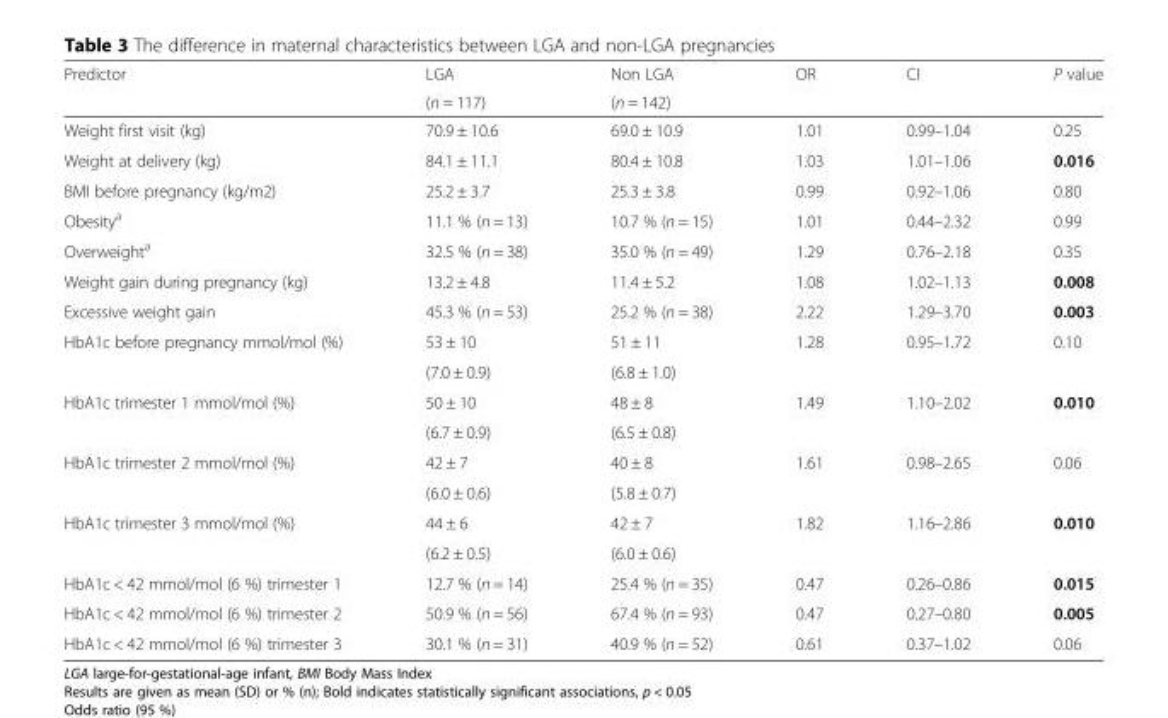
<table><thead><tr><td rowspan="2">Predictor</td><td rowspan="2">LGA (n = 117)</td><td rowspan="2">Non LGA (n = 142)</td><td rowspan="2">OR</td><td rowspan="2">CI</td><td rowspan="2">P value</td></tr><tr></tr></thead><tbody><tr><td>Weight first visit (kg)</td><td>70.9 ± 10.6</td><td>69.0 ± 10.9</td><td>1.01</td><td>0.99–1.04</td><td>0.25</td></tr><tr><td>Weight at delivery (kg)</td><td>84.1 ± 11.1</td><td>80.4 ± 10.8</td><td>1.03</td><td>1.01–1.06</td><td>0.016</td></tr><tr><td>BMI before pregnancy (kg/m2)</td><td>25.2 ± 3.7</td><td>25.3 ± 3.8</td><td>0.99</td><td>0.92–1.06</td><td>0.80</td></tr><tr><td>Obesity<sup>a</sup></td><td>11.1 % (n = 13)</td><td>10.7 % (n = 15)</td><td>1.01</td><td>0.44–2.32</td><td>0.99</td></tr><tr><td>Overweight<sup>a</sup></td><td>32.5 % (n = 38)</td><td>35.0 % (n = 49)</td><td>1.29</td><td>0.76–2.18</td><td>0.35</td></tr><tr><td>Weight gain during pregnancy (kg)</td><td>13.2 ± 4.8</td><td>11.4 ± 5.2</td><td>1.08</td><td>1.02–1.13</td><td>0.008</td></tr><tr><td>Excessive weight gain</td><td>45.3 % (n = 53)</td><td>25.2 % (n = 38)</td><td>2.22</td><td>1.29–3.70</td><td>0.003</td></tr><tr><td rowspan="2">HbA1c before pregnancy mmol/mol (%)</td><td>53 ± 10</td><td>51 ± 11</td><td rowspan="2">1.28</td><td rowspan="2">0.95–1.72</td><td rowspan="2">0.10</td></tr><tr><td>(7.0 ± 0.9)</td><td>(6.8 ± 1.0)</td></tr><tr><td rowspan="2">HbA1c trimester 1 mmol/mol (%)</td><td>50 ± 10</td><td>48 ± 8</td><td rowspan="2">1.49</td><td rowspan="2">1.10–2.02</td><td rowspan="2">0.010</td></tr><tr><td>(6.7 ± 0.9)</td><td>(6.5 ± 0.8)</td></tr><tr><td rowspan="2">HbA1c trimester 2 mmol/mol (%)</td><td>42 ± 7</td><td>40 ± 8</td><td rowspan="2">1.61</td><td rowspan="2">0.98–2.65</td><td rowspan="2">0.06</td></tr><tr><td>(6.0 ± 0.6)</td><td>(5.8 ± 0.7)</td></tr><tr><td rowspan="2">HbA1c trimester 3 mmol/mol (%)</td><td>44 ± 6</td><td>42 ± 7</td><td rowspan="2">1.82</td><td rowspan="2">1.16–2.86</td><td rowspan="2">0.010</td></tr><tr><td>(6.2 ± 0.5)</td><td>(6.0 ± 0.6)</td></tr><tr><td>HbA1c &lt; 42 mmol/mol (6 %) trimester 1</td><td>12.7 % (n = 14)</td><td>25.4 % (n = 35)</td><td>0.47</td><td>0.26–0.86</td><td>0.015</td></tr><tr><td>HbA1c &lt; 42 mmol/mol (6 %) trimester 2</td><td>50.9 % (n = 56)</td><td>67.4 % (n = 93)</td><td>0.47</td><td>0.27–0.80</td><td>0.005</td></tr><tr><td>HbA1c &lt; 42 mmol/mol (6 %) trimester 3</td><td>30.1 % (n = 31)</td><td>40.9 % (n = 52)</td><td>0.61</td><td>0.37–1.02</td><td>0.06</td></tr></tbody></table>